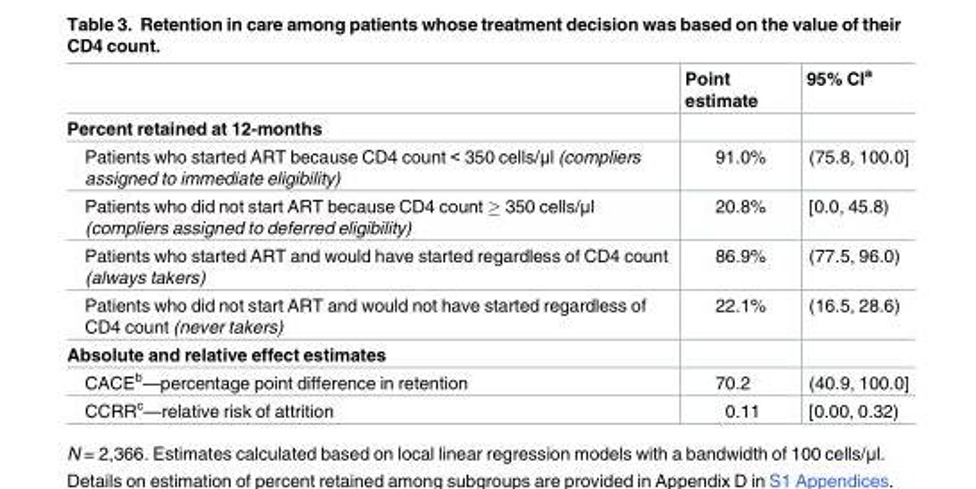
<table><thead><tr><td></td><td>Point estimate</td><td>95% CI<sup>a</sup></td></tr></thead><tbody><tr><td colspan="3">Percent retained at 12-months</td></tr><tr><td>Patients who started ART because CD4 count &lt; 350 cells/μl (compliers assigned to immediate eligibility)</td><td>91.0%</td><td>(75.8, 100.0]</td></tr><tr><td>Patients who did not start ART because CD4 count ≥ 350 cells/μl (compliers assigned to deferred eligibility)</td><td>20.8%</td><td>[0.0, 45.8)</td></tr><tr><td>Patients who started ART and would have started regardless of CD4 count (always takers)</td><td>86.9%</td><td>(77.5, 96.0)</td></tr><tr><td>Patients who did not start ART and would not have started regardless of CD4 count (never takers)</td><td>22.1%</td><td>(16.5, 28.6)</td></tr><tr><td colspan="3">Absolute and relative effect estimates</td></tr><tr><td>CACE<sup>b</sup>—percentage point difference in retention</td><td>70.2</td><td>(40.9, 100.0]</td></tr><tr><td>CCRR<sup>c</sup>—relative risk of attrition</td><td>0.11</td><td>[0.00, 0.32)</td></tr></tbody></table>